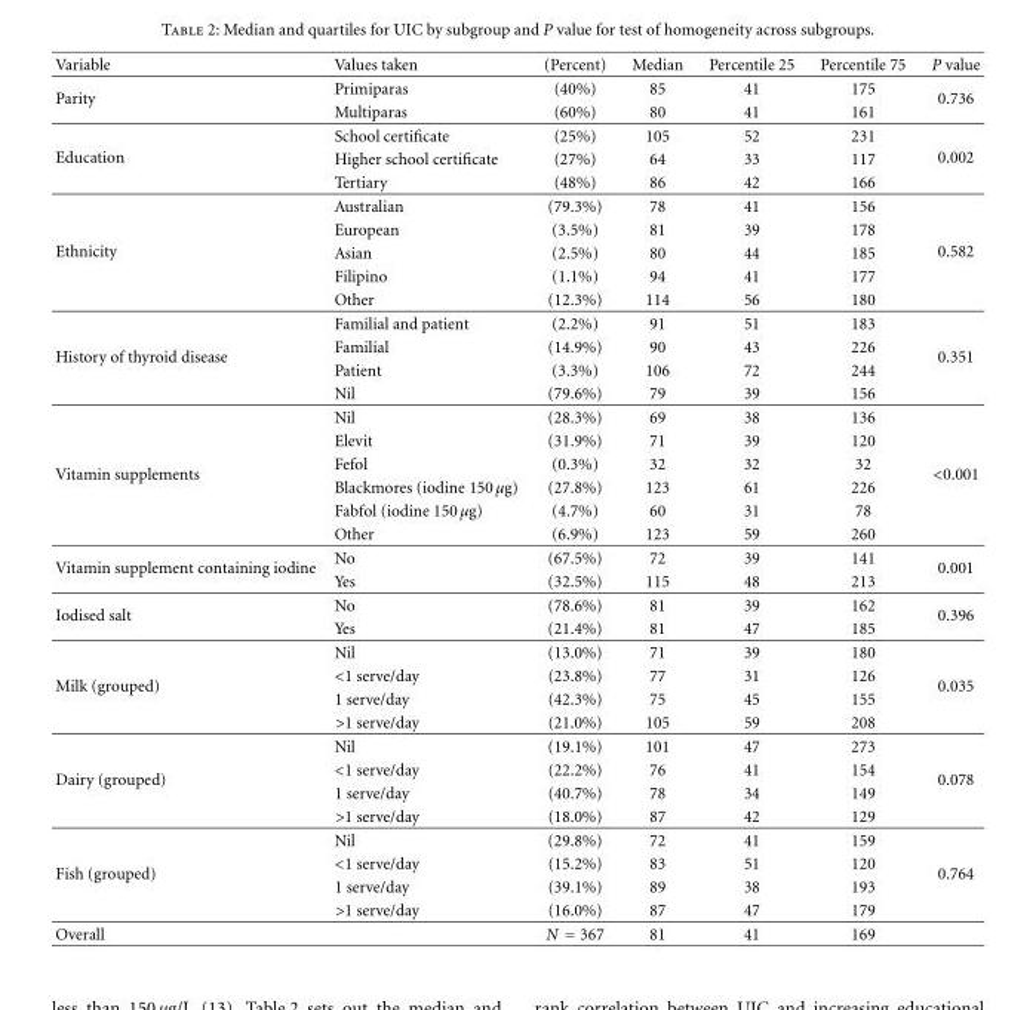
<table><thead><tr><td>Variable</td><td>Values taken</td><td>(Percent)</td><td>Median</td><td>Percentile 25</td><td>Percentile 75</td><td>P value</td></tr></thead><tbody><tr><td rowspan="2">Parity</td><td>Primiparas</td><td>(40%)</td><td>85</td><td>41</td><td>175</td><td rowspan="2">0.736</td></tr><tr><td>Multiparas</td><td>(60%)</td><td>80</td><td>41</td><td>161</td></tr><tr><td rowspan="3">Education</td><td>School certificate</td><td>(25%)</td><td>105</td><td>52</td><td>231</td><td rowspan="3">0.002</td></tr><tr><td>Higher school certificate</td><td>(27%)</td><td>64</td><td>33</td><td>117</td></tr><tr><td>Tertiary</td><td>(48%)</td><td>86</td><td>42</td><td>166</td></tr><tr><td rowspan="5">Ethnicity</td><td>Australian</td><td>(79.3%)</td><td>78</td><td>41</td><td>156</td><td rowspan="5">0.582</td></tr><tr><td>European</td><td>(3.5%)</td><td>81</td><td>39</td><td>178</td></tr><tr><td>Asian</td><td>(2.5%)</td><td>80</td><td>44</td><td>185</td></tr><tr><td>Filipino</td><td>(1.1%)</td><td>94</td><td>41</td><td>177</td></tr><tr><td>Other</td><td>(12.3%)</td><td>114</td><td>56</td><td>180</td></tr><tr><td rowspan="4">History of thyroid disease</td><td>Familial and patient</td><td>(2.2%)</td><td>91</td><td>51</td><td>183</td><td rowspan="4">0.351</td></tr><tr><td>Familial</td><td>(14.9%)</td><td>90</td><td>43</td><td>226</td></tr><tr><td>Patient</td><td>(3.3%)</td><td>106</td><td>72</td><td>244</td></tr><tr><td>Nil</td><td>(79.6%)</td><td>79</td><td>39</td><td>156</td></tr><tr><td rowspan="6">Vitamin supplements</td><td>Nil</td><td>(28.3%)</td><td>69</td><td>38</td><td>136</td><td rowspan="6">&lt;0.001</td></tr><tr><td>Elevit</td><td>(31.9%)</td><td>71</td><td>39</td><td>120</td></tr><tr><td>Fefol</td><td>(0.3%)</td><td>32</td><td>32</td><td>32</td></tr><tr><td>Blackmores (iodine 150 µg)</td><td>(27.8%)</td><td>123</td><td>61</td><td>226</td></tr><tr><td>Fabfol (iodine 150 µg)</td><td>(4.7%)</td><td>60</td><td>31</td><td>78</td></tr><tr><td>Other</td><td>(6.9%)</td><td>123</td><td>59</td><td>260</td></tr><tr><td rowspan="2">Vitamin supplement containing iodine</td><td>No</td><td>(67.5%)</td><td>72</td><td>39</td><td>141</td><td rowspan="2">0.001</td></tr><tr><td>Yes</td><td>(32.5%)</td><td>115</td><td>48</td><td>213</td></tr><tr><td rowspan="2">Iodised salt</td><td>No</td><td>(78.6%)</td><td>81</td><td>39</td><td>162</td><td rowspan="2">0.396</td></tr><tr><td>Yes</td><td>(21.4%)</td><td>81</td><td>47</td><td>185</td></tr><tr><td rowspan="4">Milk (grouped)</td><td>Nil</td><td>(13.0%)</td><td>71</td><td>39</td><td>180</td><td rowspan="4">0.035</td></tr><tr><td>&lt;1 serve/day</td><td>(23.8%)</td><td>77</td><td>31</td><td>126</td></tr><tr><td>1 serve/day</td><td>(42.3%)</td><td>75</td><td>45</td><td>155</td></tr><tr><td>&gt;1 serve/day</td><td>(21.0%)</td><td>105</td><td>59</td><td>208</td></tr><tr><td rowspan="4">Dairy (grouped)</td><td>Nil</td><td>(19.1%)</td><td>101</td><td>47</td><td>273</td><td rowspan="4">0.078</td></tr><tr><td>&lt;1 serve/day</td><td>(22.2%)</td><td>76</td><td>41</td><td>154</td></tr><tr><td>1 serve/day</td><td>(40.7%)</td><td>78</td><td>34</td><td>149</td></tr><tr><td>&gt;1 serve/day</td><td>(18.0%)</td><td>87</td><td>42</td><td>129</td></tr><tr><td rowspan="4">Fish (grouped)</td><td>Nil</td><td>(29.8%)</td><td>72</td><td>41</td><td>159</td><td rowspan="4">0.764</td></tr><tr><td>&lt;1 serve/day</td><td>(15.2%)</td><td>83</td><td>51</td><td>120</td></tr><tr><td>1 serve/day</td><td>(39.1%)</td><td>89</td><td>38</td><td>193</td></tr><tr><td>&gt;1 serve/day</td><td>(16.0%)</td><td>87</td><td>47</td><td>179</td></tr><tr><td>Overall</td><td></td><td>N = 367</td><td>81</td><td>41</td><td>169</td><td></td></tr></tbody></table>